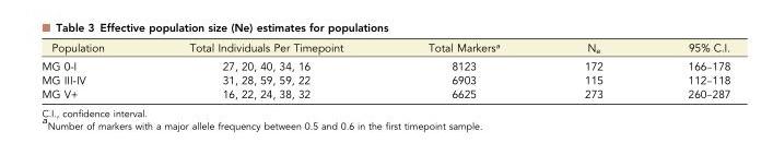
<table><thead><tr><td>Population</td><td>Total Individuals Per Timepoint</td><td>Total Markers<sup>a</sup></td><td>N<sub>e</sub></td><td>95% C.I.</td></tr></thead><tbody><tr><td>MG 0-I</td><td>27, 20, 40, 34, 16</td><td>8123</td><td>172</td><td>166–178</td></tr><tr><td>MG III-IV</td><td>31, 28, 59, 59, 22</td><td>6903</td><td>115</td><td>112–118</td></tr><tr><td>MG V+</td><td>16, 22, 24, 38, 32</td><td>6625</td><td>273</td><td>260–287</td></tr></tbody></table>